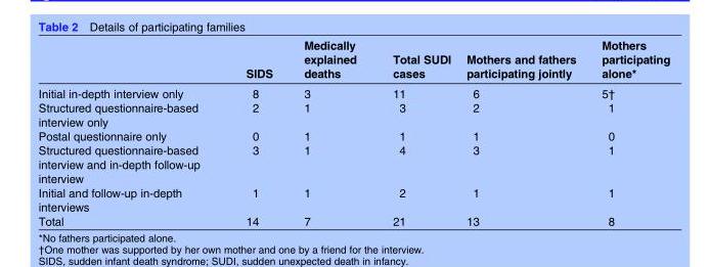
<table><thead><tr><td></td><td>SIDS</td><td>Medically explained deaths</td><td>Total SUDI cases</td><td>Mothers and fathers participating jointly</td><td>Mothers participating alone*</td></tr></thead><tbody><tr><td>Initial in-depth interview only</td><td>8</td><td>3</td><td>11</td><td>6</td><td>5†</td></tr><tr><td>Structured questionnaire-based interview only</td><td>2</td><td>1</td><td>3</td><td>2</td><td>1</td></tr><tr><td>Postal questionnaire only</td><td>0</td><td>1</td><td>1</td><td>1</td><td>0</td></tr><tr><td>Structured questionnaire-based interview and in-depth follow-up interview</td><td>3</td><td>1</td><td>4</td><td>3</td><td>1</td></tr><tr><td>Initial and follow-up in-depth interviews</td><td>1</td><td>1</td><td>2</td><td>1</td><td>1</td></tr><tr><td>Total</td><td>14</td><td>7</td><td>21</td><td>13</td><td>8</td></tr></tbody></table>